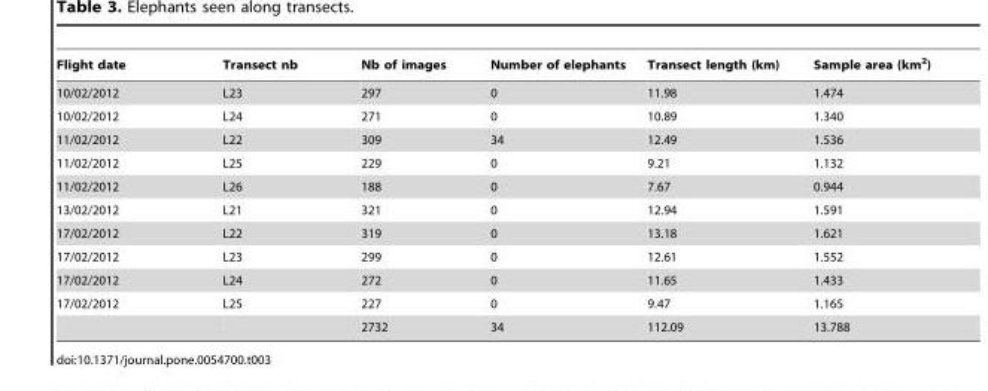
<table><thead><tr><td>Flight date</td><td>Transect nb</td><td>Nb of images</td><td>Number of elephants</td><td>Transect length (km)</td><td>Sample area (km<sup>2</sup>)</td></tr></thead><tbody><tr><td>10/02/2012</td><td>L23</td><td>297</td><td>0</td><td>11.98</td><td>1.474</td></tr><tr><td>10/02/2012</td><td>L24</td><td>271</td><td>0</td><td>10.89</td><td>1.340</td></tr><tr><td>11/02/2012</td><td>L22</td><td>309</td><td>34</td><td>12.49</td><td>1.536</td></tr><tr><td>11/02/2012</td><td>L25</td><td>229</td><td>0</td><td>9.21</td><td>1.132</td></tr><tr><td>11/02/2012</td><td>L26</td><td>188</td><td>0</td><td>7.67</td><td>0.944</td></tr><tr><td>13/02/2012</td><td>L21</td><td>321</td><td>0</td><td>12.94</td><td>1.591</td></tr><tr><td>17/02/2012</td><td>L22</td><td>319</td><td>0</td><td>13.18</td><td>1.621</td></tr><tr><td>17/02/2012</td><td>L23</td><td>299</td><td>0</td><td>12.61</td><td>1.552</td></tr><tr><td>17/02/2012</td><td>L24</td><td>272</td><td>0</td><td>11.65</td><td>1.433</td></tr><tr><td rowspan="2">17/02/2012</td><td>L25</td><td>227</td><td>0</td><td>9.47</td><td>1.165</td></tr><tr><td></td><td>2732</td><td>34</td><td>112.09</td><td>13.788</td></tr></tbody></table>